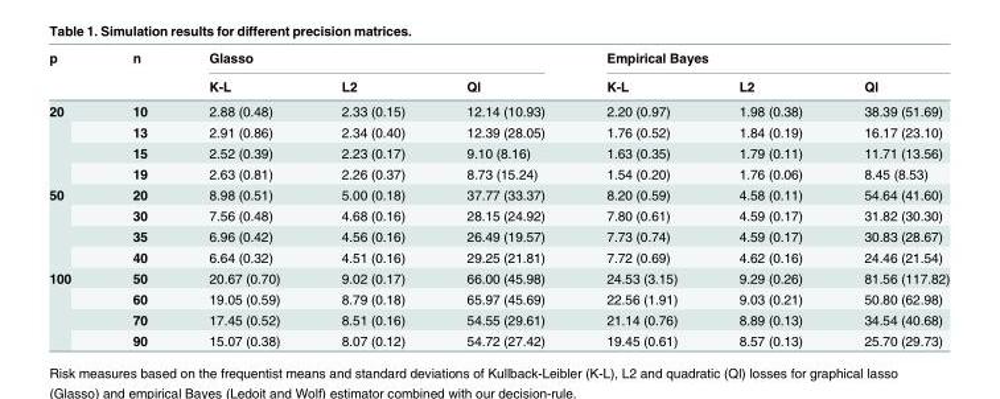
<table><thead><tr><td rowspan="2">p</td><td rowspan="2">n</td><td colspan="3">Glasso</td><td colspan="3">Empirical Bayes</td></tr><tr><td>K-L</td><td>L2</td><td>Ql</td><td>K-L</td><td>L2</td><td>Ql</td></tr></thead><tbody><tr><td rowspan="4">20</td><td>10</td><td>2.88 (0.48)</td><td>2.33 (0.15)</td><td>12.14 (10.93)</td><td>2.20 (0.97)</td><td>1.98 (0.38)</td><td>38.39 (51.69)</td></tr><tr><td>13</td><td>2.91 (0.86)</td><td>2.34 (0.40)</td><td>12.39 (28.05)</td><td>1.76 (0.52)</td><td>1.84 (0.19)</td><td>16.17 (23.10)</td></tr><tr><td>15</td><td>2.52 (0.39)</td><td>2.23 (0.17)</td><td>9.10 (8.16)</td><td>1.63 (0.35)</td><td>1.79 (0.11)</td><td>11.71 (13.56)</td></tr><tr><td>19</td><td>2.63 (0.81)</td><td>2.26 (0.37)</td><td>8.73 (15.24)</td><td>1.54 (0.20)</td><td>1.76 (0.06)</td><td>8.45 (8.53)</td></tr><tr><td rowspan="4">50</td><td>20</td><td>8.98 (0.51)</td><td>5.00 (0.18)</td><td>37.77 (33.37)</td><td>8.20 (0.59)</td><td>4.58 (0.11)</td><td>54.64 (41.60)</td></tr><tr><td>30</td><td>7.56 (0.48)</td><td>4.68 (0.16)</td><td>28.15 (24.92)</td><td>7.80 (0.61)</td><td>4.59 (0.17)</td><td>31.82 (30.30)</td></tr><tr><td>35</td><td>6.96 (0.42)</td><td>4.56 (0.16)</td><td>26.49 (19.57)</td><td>7.73 (0.74)</td><td>4.59 (0.17)</td><td>30.83 (28.67)</td></tr><tr><td>40</td><td>6.64 (0.32)</td><td>4.51 (0.16)</td><td>29.25 (21.81)</td><td>7.72 (0.69)</td><td>4.62 (0.16)</td><td>24.46 (21.54)</td></tr><tr><td rowspan="4">100</td><td>50</td><td>20.67 (0.70)</td><td>9.02 (0.17)</td><td>66.00 (45.98)</td><td>24.53 (3.15)</td><td>9.29 (0.26)</td><td>81.56 (117.82)</td></tr><tr><td>60</td><td>19.05 (0.59)</td><td>8.79 (0.18)</td><td>65.97 (45.69)</td><td>22.56 (1.91)</td><td>9.03 (0.21)</td><td>50.80 (62.98)</td></tr><tr><td>70</td><td>17.45 (0.52)</td><td>8.51 (0.16)</td><td>54.55 (29.61)</td><td>21.14 (0.76)</td><td>8.89 (0.13)</td><td>34.54 (40.68)</td></tr><tr><td>90</td><td>15.07 (0.38)</td><td>8.07 (0.12)</td><td>54.72 (27.42)</td><td>19.45 (0.61)</td><td>8.57 (0.13)</td><td>25.70 (29.73)</td></tr></tbody></table>